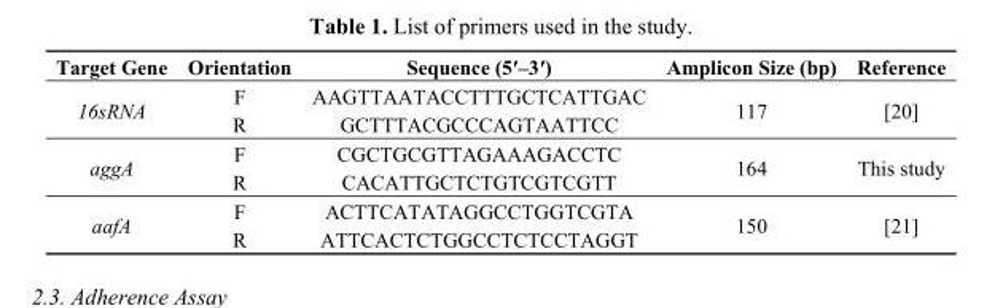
<table><thead><tr><td>Target Gene</td><td>Orientation</td><td>Sequence (5′–3′)</td><td>Amplicon Size (bp)</td><td>Reference</td></tr></thead><tbody><tr><td rowspan="2">16sRNA</td><td>F</td><td>AAGTTAATACCTTTGCTCATTGAC</td><td rowspan="2">117</td><td rowspan="2">[20]</td></tr><tr><td>R</td><td>GCTTTACGCCCAGTAATTCC</td></tr><tr><td rowspan="2">aggA</td><td>F</td><td>CGCTGCGTTAGAAAGACCTC</td><td rowspan="2">164</td><td rowspan="2">This study</td></tr><tr><td>R</td><td>CACATTGCTCTGTCGTCGTT</td></tr><tr><td rowspan="2">aafA</td><td>F</td><td>ACTTCATATAGGCCTGGTCGTA</td><td rowspan="2">150</td><td rowspan="2">[21]</td></tr><tr><td>R</td><td>ATTCACTCTGGCCTCTCCTAGGT</td></tr></tbody></table>